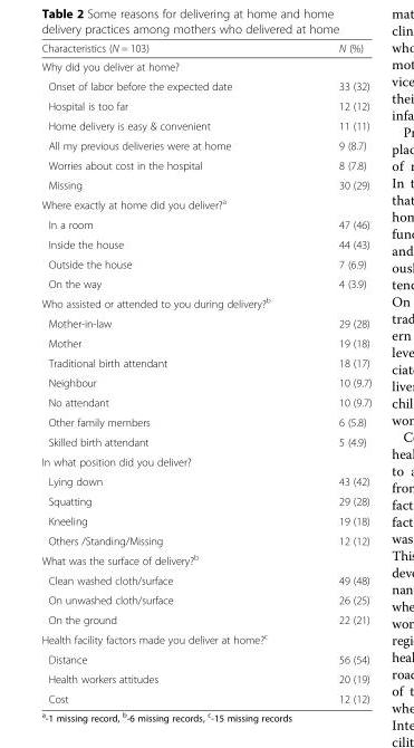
<table><thead><tr><td>Characteristics (N = 103)</td><td>N (%)</td></tr></thead><tbody><tr><td colspan="2">Why did you deliver at home?</td></tr><tr><td>Onset of labor before the expected date</td><td>33 (32)</td></tr><tr><td>Hospital is too far</td><td>12 (12)</td></tr><tr><td>Home delivery is easy &amp; convenient</td><td>11 (11)</td></tr><tr><td>All my previous deliveries were at home</td><td>9 (8.7)</td></tr><tr><td>Worries about cost in the hospital</td><td>8 (7.8)</td></tr><tr><td>Missing</td><td>30 (29)</td></tr><tr><td colspan="2">Where exactly at home did you deliver?<sup>a</sup></td></tr><tr><td>In a room</td><td>47 (46)</td></tr><tr><td>Inside the house</td><td>44 (43)</td></tr><tr><td>Outside the house</td><td>7 (6.9)</td></tr><tr><td>On the way</td><td>4 (3.9)</td></tr><tr><td colspan="2">Who assisted or attended to you during delivery?<sup>b</sup></td></tr><tr><td>Mother-in-law</td><td>29 (28)</td></tr><tr><td>Mother</td><td>19 (18)</td></tr><tr><td>Traditional birth attendant</td><td>18 (17)</td></tr><tr><td>Neighbour</td><td>10 (9.7)</td></tr><tr><td>No attendant</td><td>10 (9.7)</td></tr><tr><td>Other family members</td><td>6 (5.8)</td></tr><tr><td>Skilled birth attendant</td><td>5 (4.9)</td></tr><tr><td colspan="2">In what position did you deliver?</td></tr><tr><td>Lying down</td><td>43 (42)</td></tr><tr><td>Squatting</td><td>29 (28)</td></tr><tr><td>Kneeling</td><td>19 (18)</td></tr><tr><td>Others /Standing/Missing</td><td>12 (12)</td></tr><tr><td colspan="2">What was the surface of delivery?<sup>b</sup></td></tr><tr><td>Clean washed cloth/surface</td><td>49 (48)</td></tr><tr><td>On unwashed cloth/surface</td><td>26 (25)</td></tr><tr><td>On the ground</td><td>22 (21)</td></tr><tr><td colspan="2">Health facility factors made you deliver at home?<sup>c</sup></td></tr><tr><td>Distance</td><td>56 (54)</td></tr><tr><td>Health workers attitudes</td><td>20 (19)</td></tr><tr><td>Cost</td><td>12 (12)</td></tr></tbody></table>